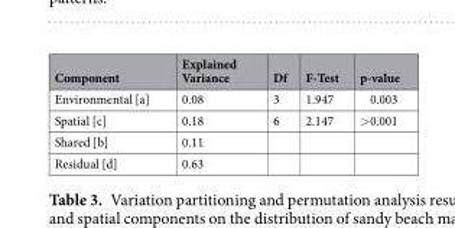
<table><thead><tr><td>Component</td><td>Explained Variance</td><td>Df</td><td>F-Test</td><td>p-value</td></tr></thead><tbody><tr><td>Environmental [a]</td><td>0.08</td><td>3</td><td>1.947</td><td>0.003</td></tr><tr><td>Spatial [c]</td><td>0.18</td><td>6</td><td>2.147</td><td>&gt;0.001</td></tr><tr><td>Shared [b]</td><td>0.11</td><td></td><td></td><td></td></tr><tr><td>Residual [d]</td><td>0.63</td><td></td><td></td><td></td></tr></tbody></table>